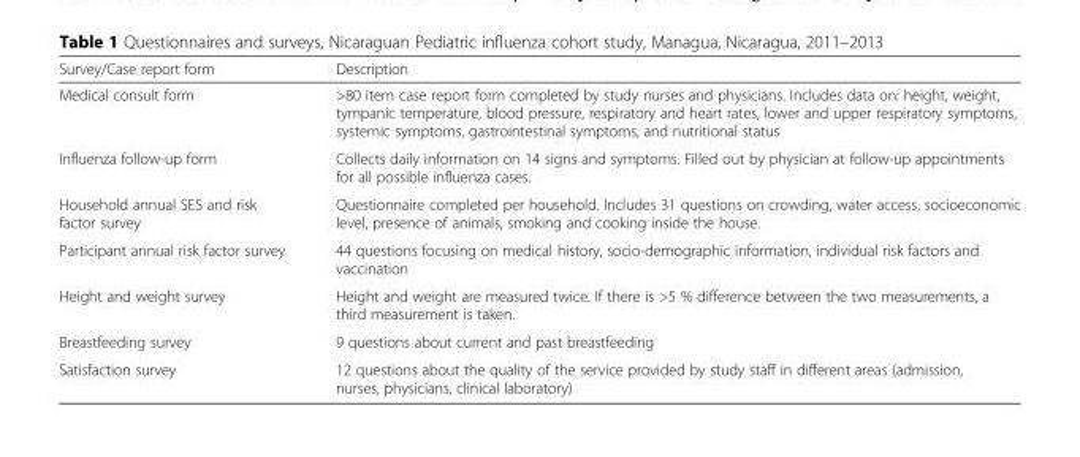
<table><thead><tr><td>Survey/Case report form</td><td>Description</td></tr></thead><tbody><tr><td>Medical consult form</td><td>&gt;80 item case report form completed by study nurses and physicians. Includes data on: height, weight, tympanic temperature, blood pressure, respiratory and heart rates, lower and upper respiratory symptoms, systemic symptoms, gastrointestinal symptoms, and nutritional status</td></tr><tr><td>Influenza follow-up form</td><td>Collects daily information on 14 signs and symptoms. Filled out by physician at follow-up appointments for all possible influenza cases.</td></tr><tr><td>Household annual SES and risk factor survey</td><td>Questionnaire completed per household. Includes 31 questions on crowding, water access, socioeconomic level, presence of animals, smoking and cooking inside the house.</td></tr><tr><td>Participant annual risk factor survey</td><td>44 questions focusing on medical history, socio-demographic information, individual risk factors and vaccination</td></tr><tr><td>Height and weight survey</td><td>Height and weight are measured twice. If there is &gt;5 % difference between the two measurements, a third measurement is taken.</td></tr><tr><td>Breastfeeding survey</td><td>9 questions about current and past breastfeeding</td></tr><tr><td>Satisfaction survey</td><td>12 questions about the quality of the service provided by study staff in different areas (admission, nurses, physicians, clinical laboratory)</td></tr></tbody></table>